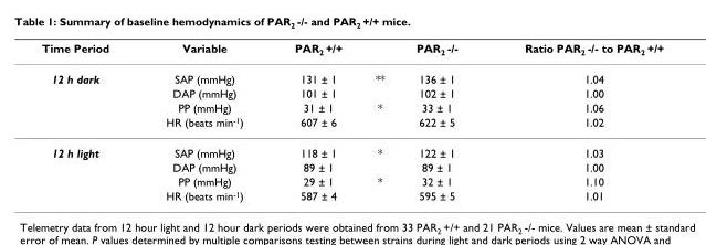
<table><thead><tr><td>Time Period</td><td>Variable</td><td>PAR<sub>2</sub> +/+</td><td></td><td>PAR<sub>2</sub> -/-</td><td>Ratio PAR<sub>2</sub> -/- to PAR<sub>2</sub> +/+</td></tr></thead><tbody><tr><td rowspan="4">12 h dark</td><td>SAP (mmHg)</td><td>131 ± 1</td><td>**</td><td>136 ± 1</td><td>1.04</td></tr><tr><td>DAP (mmHg)</td><td>101 ± 1</td><td></td><td>102 ± 1</td><td>1.00</td></tr><tr><td>PP (mmHg)</td><td>31 ± 1</td><td>*</td><td>33 ± 1</td><td>1.06</td></tr><tr><td>HR (beats min<sup>-1</sup>)</td><td>607 ± 6</td><td></td><td>622 ± 5</td><td>1.02</td></tr><tr><td rowspan="4">12 h light</td><td>SAP (mmHg)</td><td>118 ± 1</td><td>*</td><td>122 ± 1</td><td>1.03</td></tr><tr><td>DAP (mmHg)</td><td>89 ± 1</td><td></td><td>89 ± 1</td><td>1.00</td></tr><tr><td>PP (mmHg)</td><td>29 ± 1</td><td>*</td><td>32 ± 1</td><td>1.10</td></tr><tr><td>HR (beats min<sup>-1</sup>)</td><td>587 ± 4</td><td></td><td>595 ± 5</td><td>1.01</td></tr></tbody></table>